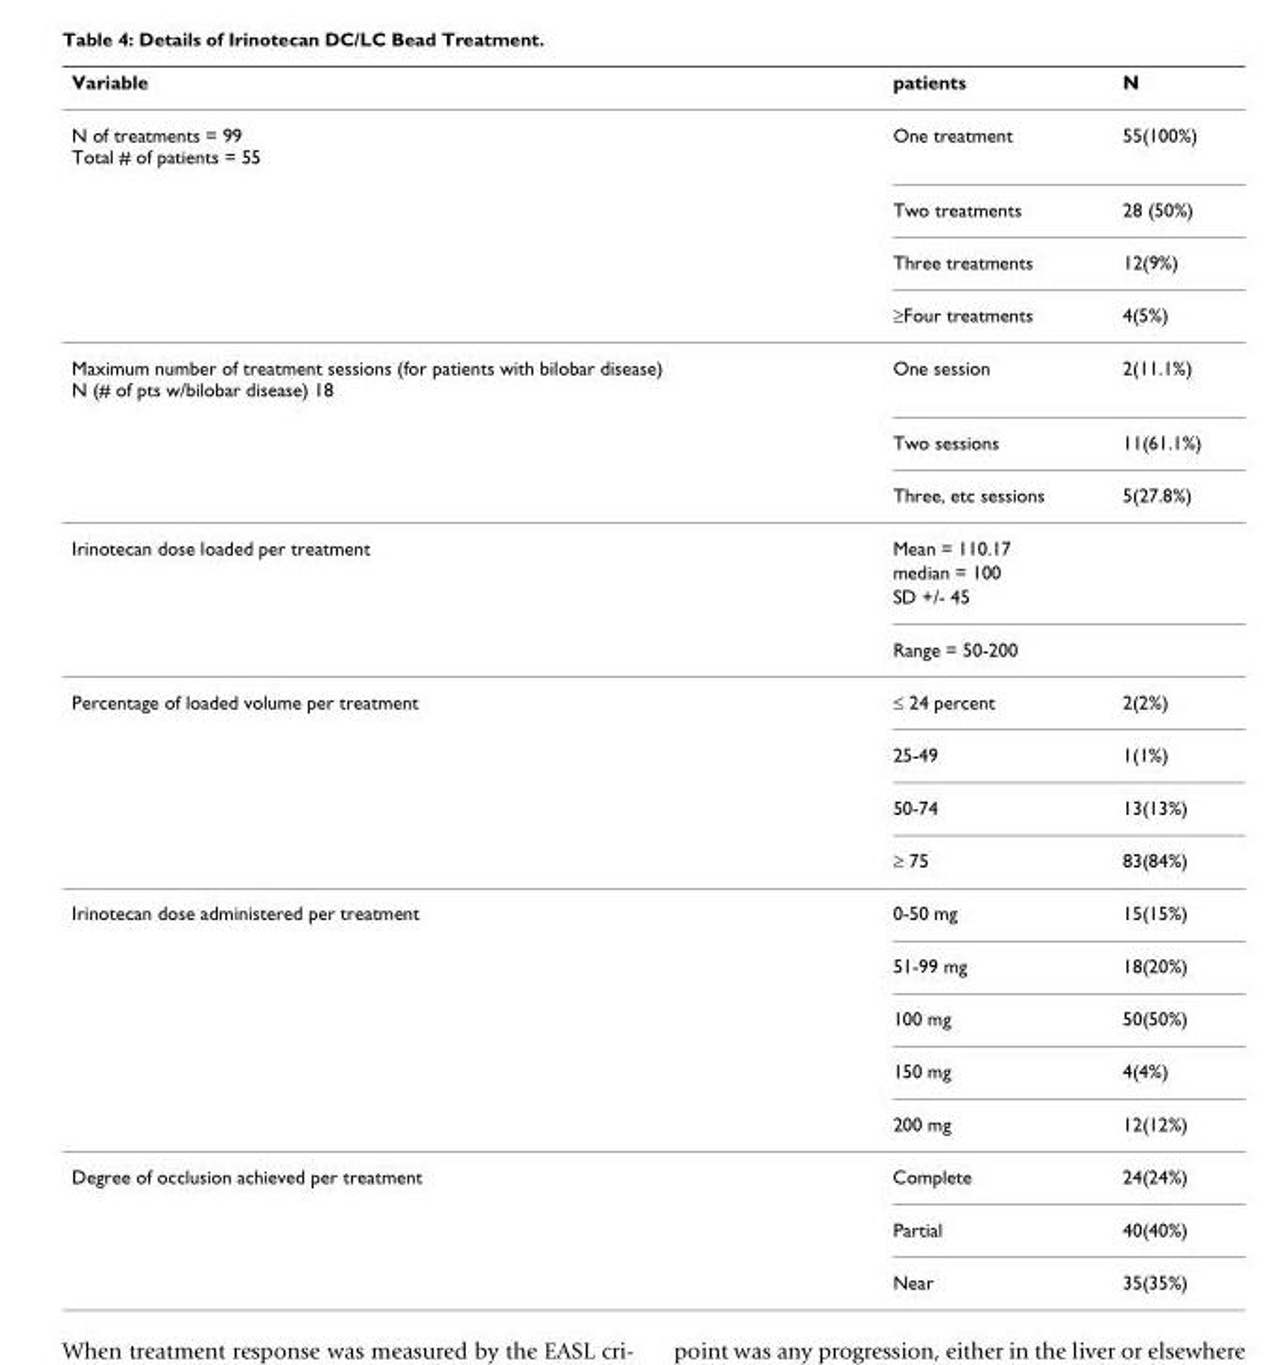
<table><thead><tr><td>Variable</td><td>patients</td><td>N</td></tr></thead><tbody><tr><td rowspan="4">N of treatments = 99 Total # of patients = 55</td><td>One treatment</td><td>55(100%)</td></tr><tr><td>Two treatments</td><td>28 (50%)</td></tr><tr><td>Three treatments</td><td>12(9%)</td></tr><tr><td>≥Four treatments</td><td>4(5%)</td></tr><tr><td rowspan="3">Maximum number of treatment sessions (for patients with bilobar disease) N (# of pts w/bilobar disease) 18</td><td>One session</td><td>2(11.1%)</td></tr><tr><td>Two sessions</td><td>11(61.1%)</td></tr><tr><td>Three, etc sessions</td><td>5(27.8%)</td></tr><tr><td rowspan="4">Irinotecan dose loaded per treatment</td><td>Mean = 110.17</td><td></td></tr><tr><td>median = 100</td><td></td></tr><tr><td>SD +/- 45</td><td></td></tr><tr><td>Range = 50-200</td><td></td></tr><tr><td rowspan="4">Percentage of loaded volume per treatment</td><td>≤ 24 percent</td><td>2(2%)</td></tr><tr><td>25-49</td><td>1(1%)</td></tr><tr><td>50-74</td><td>13(13%)</td></tr><tr><td>≥ 75</td><td>83(84%)</td></tr><tr><td rowspan="5">Irinotecan dose administered per treatment</td><td>0-50 mg</td><td>15(15%)</td></tr><tr><td>51-99 mg</td><td>18(20%)</td></tr><tr><td>100 mg</td><td>50(50%)</td></tr><tr><td>150 mg</td><td>4(4%)</td></tr><tr><td>200 mg</td><td>12(12%)</td></tr><tr><td rowspan="3">Degree of occlusion achieved per treatment</td><td>Complete</td><td>24(24%)</td></tr><tr><td>Partial</td><td>40(40%)</td></tr><tr><td>Near</td><td>35(35%)</td></tr></tbody></table>